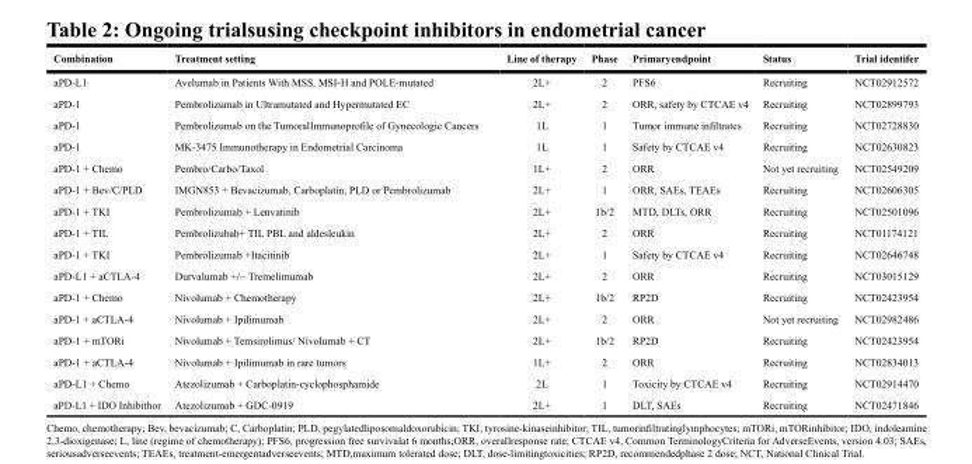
<table><thead><tr><td>Combination</td><td>Treatment setting</td><td>Line of therapy</td><td>Phase</td><td>Primaryendpoint</td><td>Status</td><td>Trial identifer</td></tr></thead><tbody><tr><td>aPD-L1</td><td>Avelumab in Patients With MSS, MSI-H and POLE-mutated</td><td>2L+</td><td>2</td><td>PFS6</td><td>Recruiting</td><td>NCT02912572</td></tr><tr><td>aPD-1</td><td>Pembrolizumab in Ultramutated and Hypermutated EC</td><td>2L+</td><td>2</td><td>ORR, safety by CTCAE v4</td><td>Recruiting</td><td>NCT02899793</td></tr><tr><td>aPD-1</td><td>Pembrolizumab on the TumoralImmunoprofile of Gynecologic Cancers</td><td>1L</td><td>1</td><td>Tumor immune infiltrates</td><td>Recruiting</td><td>NCT02728830</td></tr><tr><td>aPD-1</td><td>MK-3475 Immunotherapy in Endometrial Carcinoma</td><td>1L</td><td>1</td><td>Safety by CTCAE v4</td><td>Recruiting</td><td>NCT02630823</td></tr><tr><td>aPD-1 + Chemo</td><td>Pembro/Carbo/Taxol</td><td>1L+</td><td>2</td><td>ORR</td><td>Not yet recruiting</td><td>NCT02549209</td></tr><tr><td>aPD-1 + Bev/C/PLD</td><td>IMGN853 + Bevacizumab, Carboplatin, PLD or Pembrolizumab</td><td>2L+</td><td>1</td><td>ORR, SAEs, TEAEs</td><td>Recruiting</td><td>NCT02606305</td></tr><tr><td>aPD-1 + TKI</td><td>Pembrolizumab + Lenvatinib</td><td>2L+</td><td>1b/2</td><td>MTD, DLTs, ORR</td><td>Recruiting</td><td>NCT02501096</td></tr><tr><td>aPD-1 + TIL</td><td>Pembrolizubab+ TIL PBL and aldesleukin</td><td>2L+</td><td>2</td><td>ORR</td><td>Recruiting</td><td>NCT01174121</td></tr><tr><td>aPD-1 + TKI</td><td>Pembrolizumab +Itacitinib</td><td>2L+</td><td>1</td><td>Safety by CTCAE v4</td><td>Recruiting</td><td>NCT02646748</td></tr><tr><td>aPD-L1 + aCTLA-4</td><td>Durvalumab +/− Tremelimumab</td><td>2L+</td><td>2</td><td>ORR</td><td>Recruiting</td><td>NCT03015129</td></tr><tr><td>aPD-1 + Chemo</td><td>Nivolumab + Chemotherapy</td><td>2L+</td><td>1b/2</td><td>RP2D</td><td>Recruiting</td><td>NCT02423954</td></tr><tr><td>aPD-1 + aCTLA-4</td><td>Nivolumab + Ipilimumab</td><td>2L+</td><td>2</td><td>ORR</td><td>Not yet recruiting</td><td>NCT02982486</td></tr><tr><td>aPD-1 + mTORi</td><td>Nivolumab + Temsirolimus/ Nivolumab + CT</td><td>2L+</td><td>1b/2</td><td>RP2D</td><td>Recruiting</td><td>NCT02423954</td></tr><tr><td>aPD-1 + aCTLA-4</td><td>Nivolumab + Ipilimumab in rare tumors</td><td>1L+</td><td>2</td><td>ORR</td><td>Recruiting</td><td>NCT02834013</td></tr><tr><td>aPD-L1 + Chemo</td><td>Atezolizumab + Carboplatin-cyclophosphamide</td><td>2L</td><td>1</td><td>Toxicity by CTCAE v4</td><td>Recruiting</td><td>NCT02914470</td></tr><tr><td>aPD-L1 + IDO Inhibithor</td><td>Atezolizumab + GDC-0919</td><td>2L+</td><td>1</td><td>DLT, SAEs</td><td>Recruiting</td><td>NCT02471846</td></tr></tbody></table>